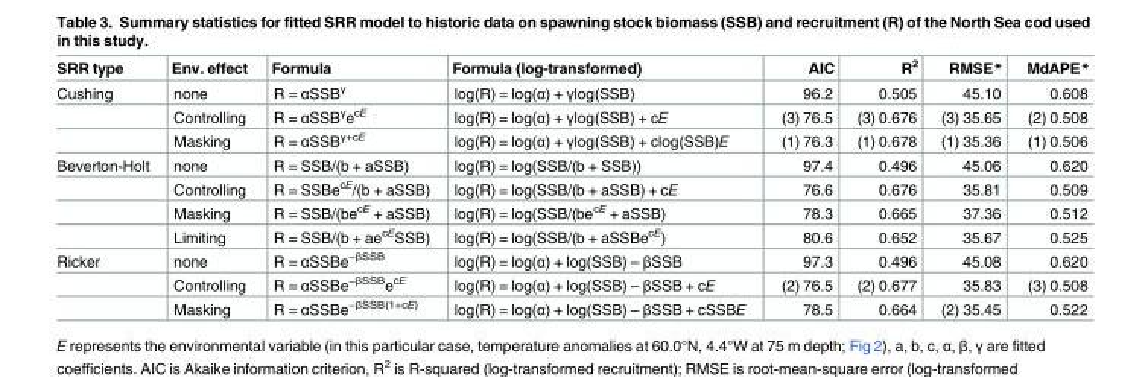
<table><thead><tr><td>SRR type</td><td>Env. effect</td><td>Formula</td><td>Formula (log-transformed)</td><td>AIC</td><td>R<sup>2</sup></td><td>RMSE*</td><td>MdAPE*</td></tr></thead><tbody><tr><td rowspan="3">Cushing</td><td>none</td><td>R = αSSB<sup>γ</sup></td><td>log(R) = log(α) + γlog(SSB)</td><td>96.2</td><td>0.505</td><td>45.10</td><td>0.608</td></tr><tr><td>Controlling</td><td>R = αSSB<sup>γ</sup>e<sup>cE</sup></td><td>log(R) = log(α) + γlog(SSB) + cE</td><td>(3) 76.5</td><td>(3) 0.676</td><td>(3) 35.65</td><td>(2) 0.508</td></tr><tr><td>Masking</td><td>R = αSSB<sup>γ+cE</sup></td><td>log(R) = log(α) + γlog(SSB) + clog(SSB)E</td><td>(1) 76.3</td><td>(1) 0.678</td><td>(1) 35.36</td><td>(1) 0.506</td></tr><tr><td rowspan="4">Beverton-Holt</td><td>none</td><td>R = SSB/(b + aSSB)</td><td>log(R) = log(SSB/(b + SSB))</td><td>97.4</td><td>0.496</td><td>45.06</td><td>0.620</td></tr><tr><td>Controlling</td><td>R = SSBe<sup>cE</sup>/(b + aSSB)</td><td>log(R) = log(SSB/(b + aSSB) + cE</td><td>76.6</td><td>0.676</td><td>35.81</td><td>0.509</td></tr><tr><td>Masking</td><td>R = SSB/(be<sup>cE</sup> + aSSB)</td><td>log(R) = log(SSB/(be<sup>cE</sup> + aSSB)</td><td>78.3</td><td>0.665</td><td>37.36</td><td>0.512</td></tr><tr><td>Limiting</td><td>R = SSB/(b + ae<sup>cE</sup>SSB)</td><td>log(R) = log(SSB/(b + aSSBe<sup>cE</sup>)</td><td>80.6</td><td>0.652</td><td>35.67</td><td>0.525</td></tr><tr><td rowspan="3">Ricker</td><td>none</td><td>R = αSSBe<sup>−βSSB</sup></td><td>log(R) = log(α) + log(SSB) – βSSB</td><td>97.3</td><td>0.496</td><td>45.08</td><td>0.620</td></tr><tr><td>Controlling</td><td>R = αSSBe<sup>−βSSB</sup>e<sup>cE</sup></td><td>log(R) = log(α) + log(SSB) – βSSB + cE</td><td>(2) 76.5</td><td>(2) 0.677</td><td>35.83</td><td>(3) 0.508</td></tr><tr><td>Masking</td><td>R = αSSBe<sup>−βSSB(1+cE)</sup></td><td>log(R) = log(α) + log(SSB) – βSSB + cSSBE</td><td>78.5</td><td>0.664</td><td>(2) 35.45</td><td>0.522</td></tr></tbody></table>